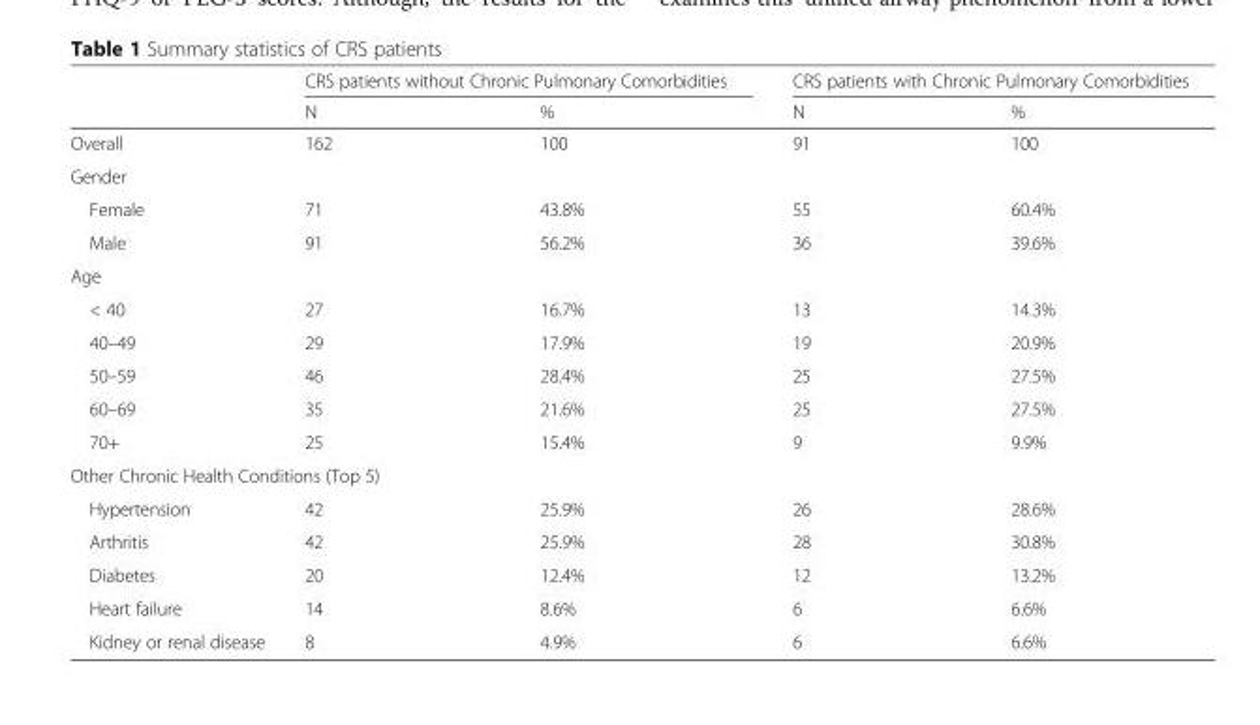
<table><thead><tr><td rowspan="2"></td><td colspan="2">CRS patients without Chronic Pulmonary Comorbidities</td><td colspan="2">CRS patients with Chronic Pulmonary Comorbidities</td></tr><tr><td>N</td><td>%</td><td>N</td><td>%</td></tr></thead><tbody><tr><td>Overall</td><td>162</td><td>100</td><td>91</td><td>100</td></tr><tr><td colspan="5">Gender</td></tr><tr><td>Female</td><td>71</td><td>43.8%</td><td>55</td><td>60.4%</td></tr><tr><td>Male</td><td>91</td><td>56.2%</td><td>36</td><td>39.6%</td></tr><tr><td colspan="5">Age</td></tr><tr><td>&lt; 40</td><td>27</td><td>16.7%</td><td>13</td><td>14.3%</td></tr><tr><td>40–49</td><td>29</td><td>17.9%</td><td>19</td><td>20.9%</td></tr><tr><td>50–59</td><td>46</td><td>28.4%</td><td>25</td><td>27.5%</td></tr><tr><td>60–69</td><td>35</td><td>21.6%</td><td>25</td><td>27.5%</td></tr><tr><td>70+</td><td>25</td><td>15.4%</td><td>9</td><td>9.9%</td></tr><tr><td colspan="5">Other Chronic Health Conditions (Top 5)</td></tr><tr><td>Hypertension</td><td>42</td><td>25.9%</td><td>26</td><td>28.6%</td></tr><tr><td>Arthritis</td><td>42</td><td>25.9%</td><td>28</td><td>30.8%</td></tr><tr><td>Diabetes</td><td>20</td><td>12.4%</td><td>12</td><td>13.2%</td></tr><tr><td>Heart failure</td><td>14</td><td>8.6%</td><td>6</td><td>6.6%</td></tr><tr><td>Kidney or renal disease</td><td>8</td><td>4.9%</td><td>6</td><td>6.6%</td></tr></tbody></table>